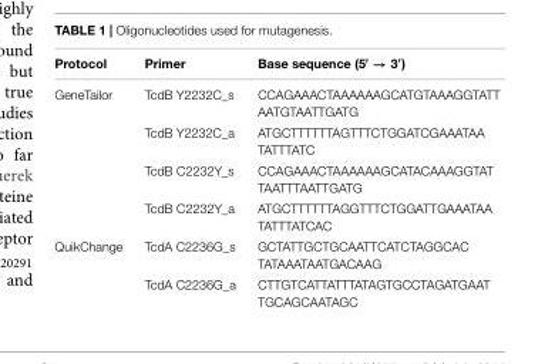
<table><thead><tr><td>Protocol</td><td>Primer</td><td>Base sequence (5′ → 3′)</td></tr></thead><tbody><tr><td rowspan="4">GeneTailor</td><td>TcdB Y2232C_s</td><td>CCAGAAACTAAAAAAGCATGTAAAGGTATT AATGTAATTGATG</td></tr><tr><td>TcdB Y2232C_a</td><td>ATGCTTTTTTAGTTTCTGGATCGAAATAA TATTTATC</td></tr><tr><td>TcdB C2232Y_s</td><td>CCAGAAACTAAAAAAGCATACAAAGGTAT TAATTTAATTGATG</td></tr><tr><td>TcdB C2232Y_a</td><td>ATGCTTTTTTAGGTTTCTGGATTGAAATAA TATTTATCAC</td></tr><tr><td rowspan="2">QuikChange</td><td>TcdA C2236G_s</td><td>GCTATTGCTGCAATTCATCTAGGCAC TATAAATAATGACAAG</td></tr><tr><td>TcdA C2236G_a</td><td>CTTGTCATTATTTATAGTGCCTAGATGAAT TGCAGCAATAGC</td></tr></tbody></table>